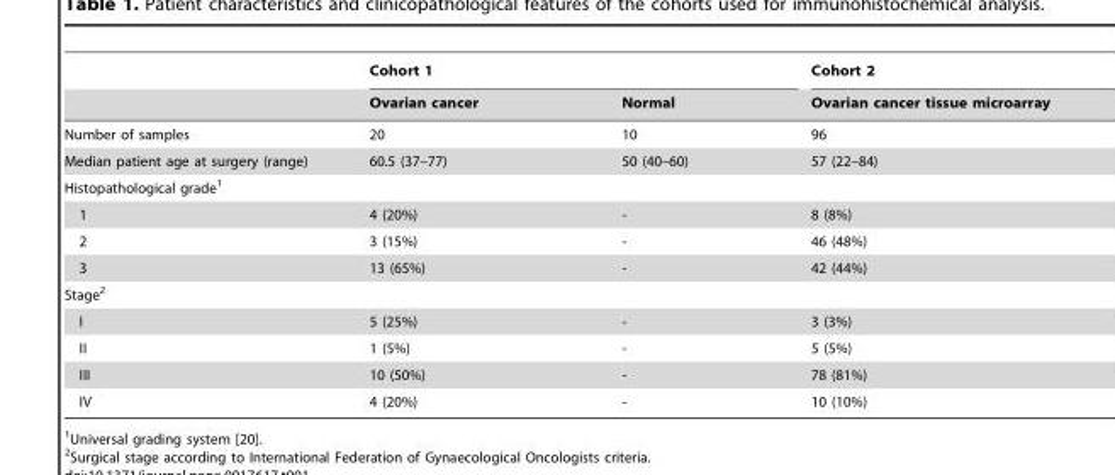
<table><thead><tr><td rowspan="2"></td><td colspan="2">Cohort 1</td><td rowspan="2">Cohort 2 Ovarian cancer tissue microarray</td></tr><tr><td>Ovarian cancer</td><td>Normal</td></tr></thead><tbody><tr><td>Number of samples</td><td>20</td><td>10</td><td>96</td></tr><tr><td>Median patient age at surgery (range)</td><td>60.5 (37–77)</td><td>50 (40–60)</td><td>57 (22–84)</td></tr><tr><td colspan="4">Histopathological grade<sup>1</sup></td></tr><tr><td>1</td><td>4 (20%)</td><td>-</td><td>8 (8%)</td></tr><tr><td>2</td><td>3 (15%)</td><td>-</td><td>46 (48%)</td></tr><tr><td>3</td><td>13 (65%)</td><td>-</td><td>42 (44%)</td></tr><tr><td colspan="4">Stage<sup>2</sup></td></tr><tr><td>I</td><td>5 (25%)</td><td>-</td><td>3 (3%)</td></tr><tr><td>II</td><td>1 (5%)</td><td>-</td><td>5 (5%)</td></tr><tr><td>III</td><td>10 (50%)</td><td>-</td><td>78 (81%)</td></tr><tr><td>IV</td><td>4 (20%)</td><td>-</td><td>10 (10%)</td></tr></tbody></table>